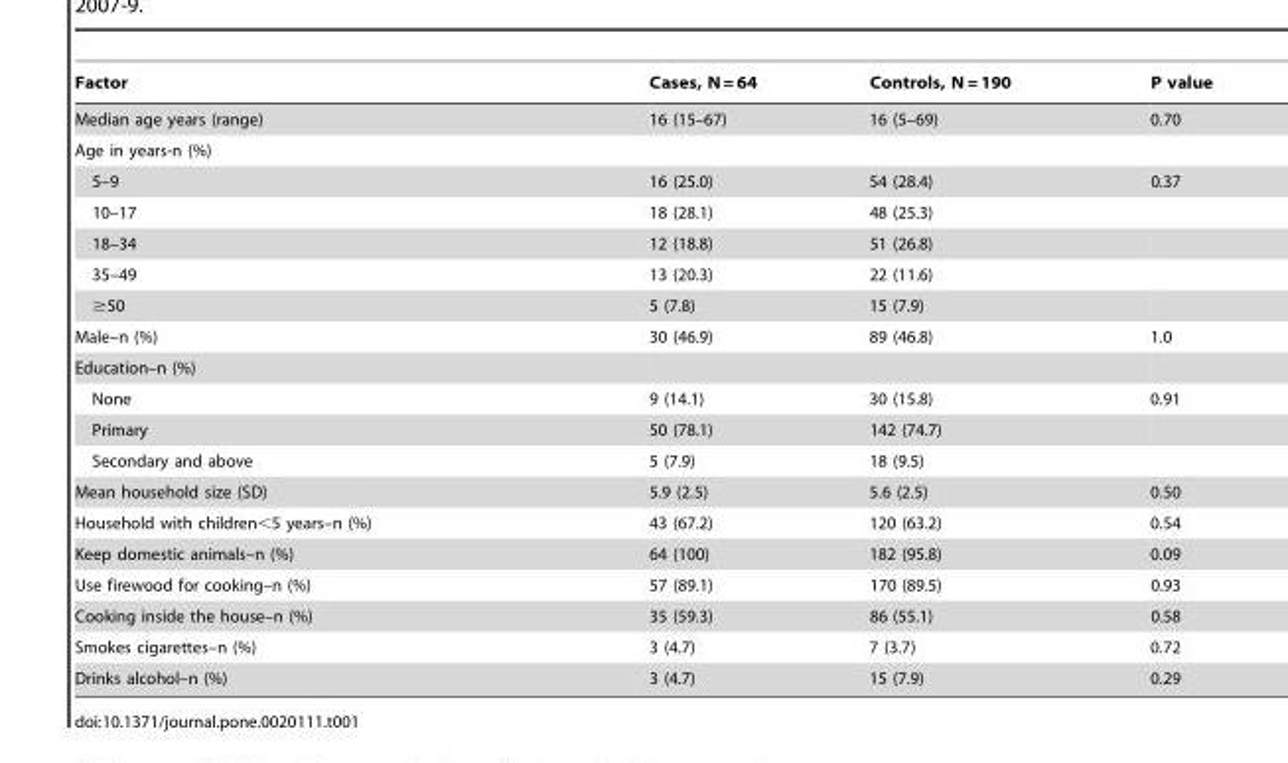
<table><thead><tr><td>Factor</td><td>Cases, N = 64</td><td>Controls, N = 190</td><td>P value</td></tr></thead><tbody><tr><td>Median age years (range)</td><td>16 (15–67)</td><td>16 (5–69)</td><td>0.70</td></tr><tr><td colspan="4">Age in years-n (%)</td></tr><tr><td>5–9</td><td>16 (25.0)</td><td>54 (28.4)</td><td>0.37</td></tr><tr><td>10–17</td><td>18 (28.1)</td><td>48 (25.3)</td><td></td></tr><tr><td>18–34</td><td>12 (18.8)</td><td>51 (26.8)</td><td></td></tr><tr><td>35–49</td><td>13 (20.3)</td><td>22 (11.6)</td><td></td></tr><tr><td>≥50</td><td>5 (7.8)</td><td>15 (7.9)</td><td></td></tr><tr><td>Male–n (%)</td><td>30 (46.9)</td><td>89 (46.8)</td><td>1.0</td></tr><tr><td colspan="4">Education–n (%)</td></tr><tr><td>None</td><td>9 (14.1)</td><td>30 (15.8)</td><td>0.91</td></tr><tr><td>Primary</td><td>50 (78.1)</td><td>142 (74.7)</td><td></td></tr><tr><td>Secondary and above</td><td>5 (7.9)</td><td>18 (9.5)</td><td></td></tr><tr><td>Mean household size (SD)</td><td>5.9 (2.5)</td><td>5.6 (2.5)</td><td>0.50</td></tr><tr><td>Household with children&lt;5 years–n (%)</td><td>43 (67.2)</td><td>120 (63.2)</td><td>0.54</td></tr><tr><td>Keep domestic animals–n (%)</td><td>64 (100)</td><td>182 (95.8)</td><td>0.09</td></tr><tr><td>Use firewood for cooking–n (%)</td><td>57 (89.1)</td><td>170 (89.5)</td><td>0.93</td></tr><tr><td>Cooking inside the house–n (%)</td><td>35 (59.3)</td><td>86 (55.1)</td><td>0.58</td></tr><tr><td>Smokes cigarettes–n (%)</td><td>3 (4.7)</td><td>7 (3.7)</td><td>0.72</td></tr><tr><td>Drinks alcohol–n (%)</td><td>3 (4.7)</td><td>15 (7.9)</td><td>0.29</td></tr></tbody></table>